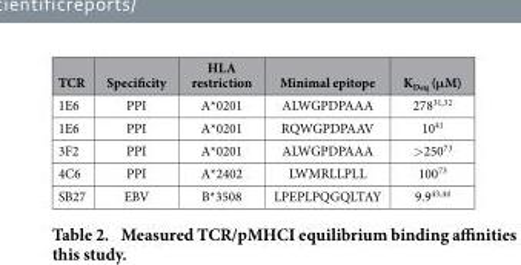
<table><thead><tr><td>TCR</td><td>Specificity</td><td>HLA restriction</td><td>Minimal epitope</td><td>K<sub>Deq</sub> (μM)</td></tr></thead><tbody><tr><td>1E6</td><td>PPI</td><td>A*0201</td><td>ALWGPDPAAA</td><td>278<sup>31</sup>,<sup>32</sup></td></tr><tr><td>1E6</td><td>PPI</td><td>A*0201</td><td>RQWGPDPAAV</td><td>10<sup>41</sup></td></tr><tr><td>3F2</td><td>PPI</td><td>A*0201</td><td>ALWGPDPAAA</td><td>&gt; 250<sup>73</sup></td></tr><tr><td>4C6</td><td>PPI</td><td>A*2402</td><td>LWMRLLPLL</td><td>100<sup>73</sup></td></tr><tr><td>SB27</td><td>EBV</td><td>B*3508</td><td>LPEPLPQGQLTAY</td><td>9.9<sup>43</sup>,<sup>44</sup></td></tr></tbody></table>